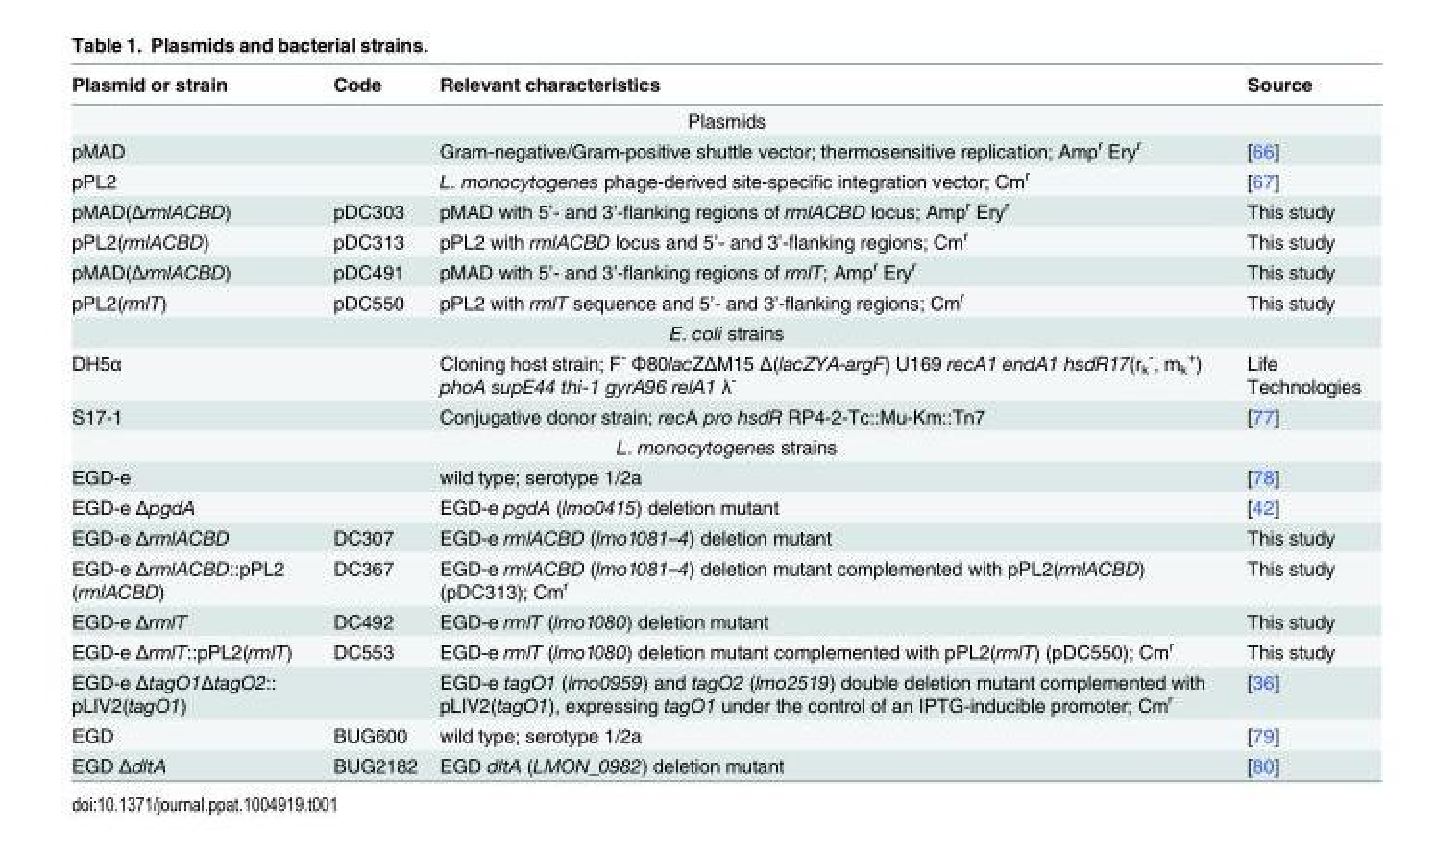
<table><thead><tr><td>Plasmid or strain</td><td>Code</td><td>Relevant characteristics</td><td>Source</td></tr></thead><tbody><tr><td colspan="4">Plasmids</td></tr><tr><td>pMAD</td><td></td><td>Gram-negative/Gram-positive shuttle vector; thermosensitive replication; Amp<sup>r</sup> Ery<sup>r</sup></td><td>[66]</td></tr><tr><td>pPL2</td><td></td><td>L. monocytogenes phage-derived site-specific integration vector; Cm<sup>r</sup></td><td>[67]</td></tr><tr><td>pMAD(ΔrmlACBD)</td><td>pDC303</td><td>pMAD with 5’- and 3’-flanking regions of rmlACBD locus; Amp<sup>r</sup> Ery<sup>r</sup></td><td>This study</td></tr><tr><td>pPL2(rmlACBD)</td><td>pDC313</td><td>pPL2 with rmlACBD locus and 5’- and 3’-flanking regions; Cm<sup>r</sup></td><td>This study</td></tr><tr><td>pMAD(ΔrmlACBD)</td><td>pDC491</td><td>pMAD with 5’- and 3’-flanking regions of rmlT; Amp<sup>r</sup> Ery<sup>r</sup></td><td>This study</td></tr><tr><td>pPL2(rmlT)</td><td>pDC550</td><td>pPL2 with rmlT sequence and 5’- and 3’-flanking regions; Cm<sup>r</sup></td><td>This study</td></tr><tr><td colspan="4">E. coli strains</td></tr><tr><td>DH5α</td><td></td><td>Cloning host strain; F<sup>-</sup> Φ80lacZΔM15 Δ(lacZYA-argF) U169 recA1 endA1 hsdR17(r<sub>k</sub> <sup>-</sup>, m<sub>k</sub> <sup>+</sup>) phoA supE44 thi-1 gyrA96 relA1 λ<sup>-</sup></td><td>Life Technologies</td></tr><tr><td>S17-1</td><td></td><td>Conjugative donor strain; recA pro hsdR RP4-2-Tc::Mu-Km::Tn7</td><td>[77]</td></tr><tr><td colspan="4">L. monocytogenes strains</td></tr><tr><td>EGD-e</td><td></td><td>wild type; serotype 1/2a</td><td>[78]</td></tr><tr><td>EGD-e ΔpgdA</td><td></td><td>EGD-e pgdA (lmo0415) deletion mutant</td><td>[42]</td></tr><tr><td>EGD-e ΔrmlACBD</td><td>DC307</td><td>EGD-e rmlACBD (lmo1081–4) deletion mutant</td><td>This study</td></tr><tr><td>EGD-e ΔrmlACBD::pPL2 (rmlACBD)</td><td>DC367</td><td>EGD-e rmlACBD (lmo1081–4) deletion mutant complemented with pPL2(rmlACBD) (pDC313); Cm<sup>r</sup></td><td>This study</td></tr><tr><td>EGD-e ΔrmlT</td><td>DC492</td><td>EGD-e rmlT (lmo1080) deletion mutant</td><td>This study</td></tr><tr><td>EGD-e ΔrmlT::pPL2(rmlT)</td><td>DC553</td><td>EGD-e rmlT (lmo1080) deletion mutant complemented with pPL2(rmlT) (pDC550); Cm<sup>r</sup></td><td>This study</td></tr><tr><td>EGD-e ΔtagO1ΔtagO2:: pLIV2(tagO1)</td><td></td><td>EGD-e tagO1 (lmo0959) and tagO2 (lmo2519) double deletion mutant complemented with pLIV2(tagO1), expressing tagO1 under the control of an IPTG-inducible promoter; Cm<sup>r</sup></td><td>[36]</td></tr><tr><td>EGD</td><td>BUG600</td><td>wild type; serotype 1/2a</td><td>[79]</td></tr><tr><td>EGD ΔdltA</td><td>BUG2182</td><td>EGD dltA (LMON_0982) deletion mutant</td><td>[80]</td></tr></tbody></table>